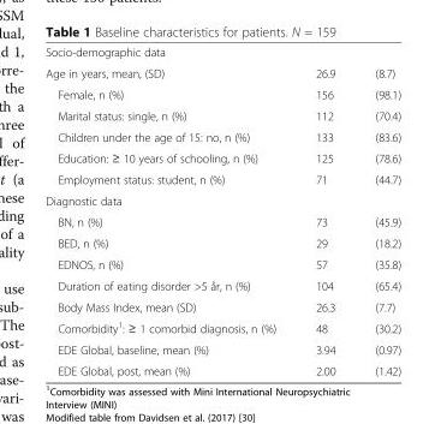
<table><tbody><tr><td colspan="3">Socio-demographic data</td></tr><tr><td>Age in years, mean, (SD)</td><td>26.9</td><td>(8.7)</td></tr><tr><td>Female, n (%)</td><td>156</td><td>(98.1)</td></tr><tr><td>Marital status: single, n (%)</td><td>112</td><td>(70.4)</td></tr><tr><td>Children under the age of 15: no, n (%)</td><td>133</td><td>(83.6)</td></tr><tr><td>Education: ≥ 10 years of schooling, n (%)</td><td>125</td><td>(78.6)</td></tr><tr><td>Employment status: student, n (%)</td><td>71</td><td>(44.7)</td></tr><tr><td colspan="3">Diagnostic data</td></tr><tr><td>BN, n (%)</td><td>73</td><td>(45.9)</td></tr><tr><td>BED, n (%)</td><td>29</td><td>(18.2)</td></tr><tr><td>EDNOS, n (%)</td><td>57</td><td>(35.8)</td></tr><tr><td>Duration of eating disorder &gt;5 år, n (%)</td><td>104</td><td>(65.4)</td></tr><tr><td>Body Mass Index, mean (SD)</td><td>26.3</td><td>(7.7)</td></tr><tr><td>Comorbidity<sup>1</sup>: ≥ 1 comorbid diagnosis, n (%)</td><td>48</td><td>(30.2)</td></tr><tr><td>EDE Global, baseline, mean (%)</td><td>3.94</td><td>(0.97)</td></tr><tr><td>EDE Global, post, mean (%)</td><td>2.00</td><td>(1.42)</td></tr></tbody></table>